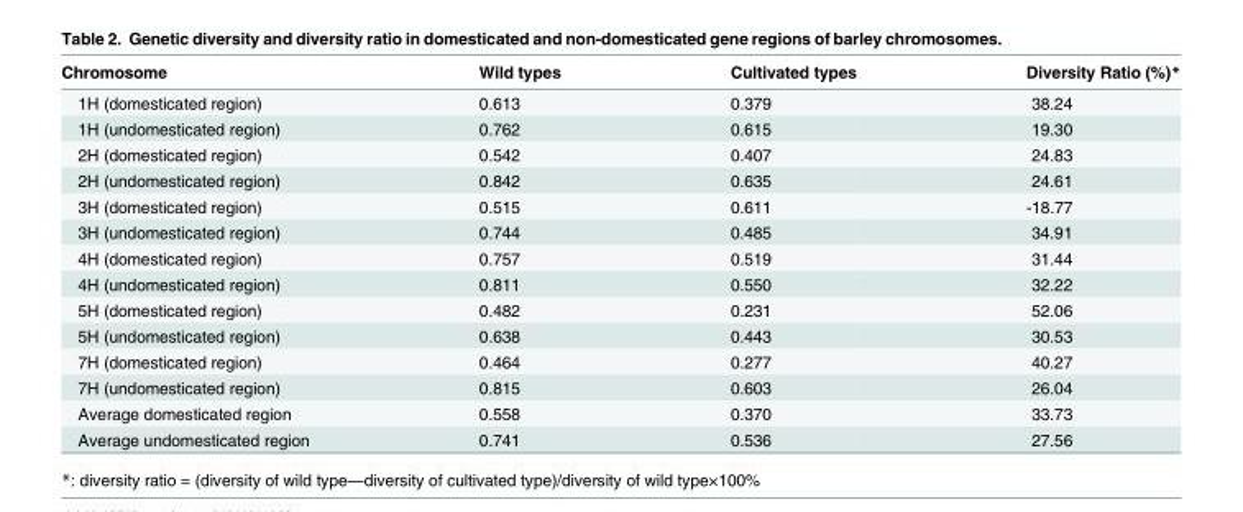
<table><thead><tr><td>Chromosome</td><td>Wild types</td><td>Cultivated types</td><td>Diversity Ratio (%)*</td></tr></thead><tbody><tr><td>1H (domesticated region)</td><td>0.613</td><td>0.379</td><td>38.24</td></tr><tr><td>1H (undomesticated region)</td><td>0.762</td><td>0.615</td><td>19.30</td></tr><tr><td>2H (domesticated region)</td><td>0.542</td><td>0.407</td><td>24.83</td></tr><tr><td>2H (undomesticated region)</td><td>0.842</td><td>0.635</td><td>24.61</td></tr><tr><td>3H (domesticated region)</td><td>0.515</td><td>0.611</td><td>-18.77</td></tr><tr><td>3H (undomesticated region)</td><td>0.744</td><td>0.485</td><td>34.91</td></tr><tr><td>4H (domesticated region)</td><td>0.757</td><td>0.519</td><td>31.44</td></tr><tr><td>4H (undomesticated region)</td><td>0.811</td><td>0.550</td><td>32.22</td></tr><tr><td>5H (domesticated region)</td><td>0.482</td><td>0.231</td><td>52.06</td></tr><tr><td>5H (undomesticated region)</td><td>0.638</td><td>0.443</td><td>30.53</td></tr><tr><td>7H (domesticated region)</td><td>0.464</td><td>0.277</td><td>40.27</td></tr><tr><td>7H (undomesticated region)</td><td>0.815</td><td>0.603</td><td>26.04</td></tr><tr><td>Average domesticated region</td><td>0.558</td><td>0.370</td><td>33.73</td></tr><tr><td>Average undomesticated region</td><td>0.741</td><td>0.536</td><td>27.56</td></tr></tbody></table>